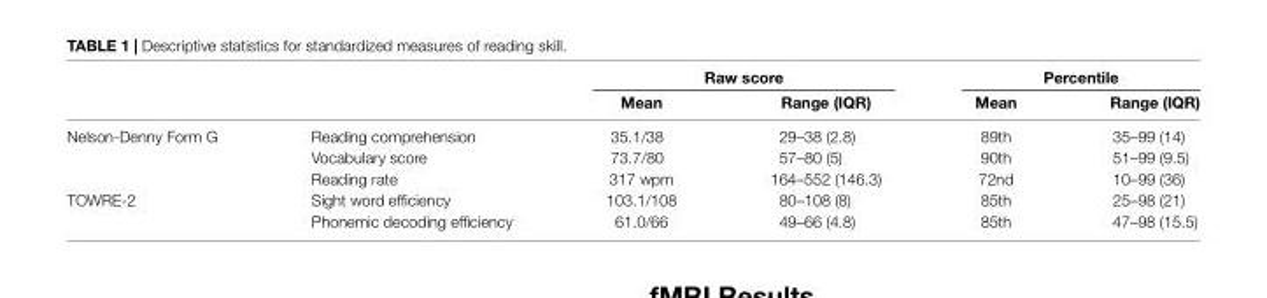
<table><thead><tr><td rowspan="2"></td><td rowspan="2"></td><td colspan="2">Raw score</td><td colspan="2">Percentile</td></tr><tr><td>Mean</td><td>Range (IQR)</td><td>Mean</td><td>Range (IQR)</td></tr></thead><tbody><tr><td rowspan="3">Nelson-Denny Form G</td><td>Reading comprehension</td><td>35.1/38</td><td>29–38 (2.8)</td><td>89th</td><td>35–99 (14)</td></tr><tr><td>Vocabulary score</td><td>73.7/80</td><td>57–80 (5)</td><td>90th</td><td>51–99 (9.5)</td></tr><tr><td>Reading rate</td><td>317 wpm</td><td>164–552 (146.3)</td><td>72nd</td><td>10–99 (36)</td></tr><tr><td rowspan="2">TOWRE-2</td><td>Sight word efficiency</td><td>103.1/108</td><td>80–108 (8)</td><td>85th</td><td>25–98 (21)</td></tr><tr><td>Phonemic decoding efficiency</td><td>61.0/66</td><td>49–66 (4.8)</td><td>85th</td><td>47–98 (15.5)</td></tr></tbody></table>